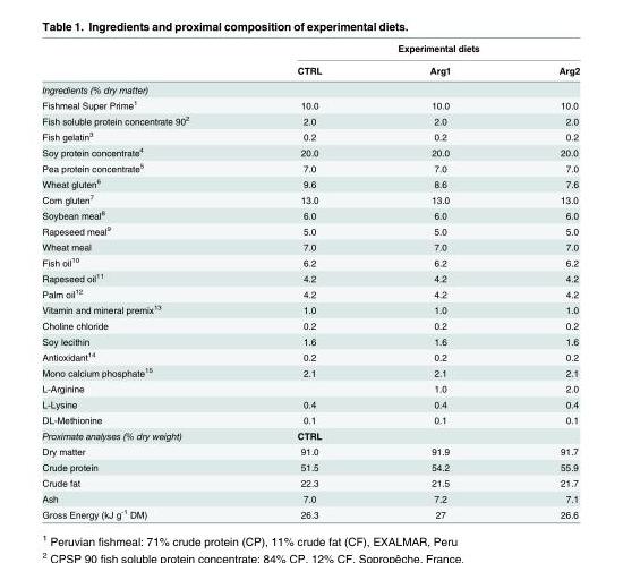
<table><thead><tr><td rowspan="2"></td><td colspan="3">Experimental diets</td></tr><tr><td>CTRL</td><td>Arg1</td><td>Arg2</td></tr></thead><tbody><tr><td colspan="4">Ingredients (% dry matter)</td></tr><tr><td>Fishmeal Super Prime<sup>1</sup></td><td>10.0</td><td>10.0</td><td>10.0</td></tr><tr><td>Fish soluble protein concentrate 90<sup>2</sup></td><td>2.0</td><td>2.0</td><td>2.0</td></tr><tr><td>Fish gelatin<sup>3</sup></td><td>0.2</td><td>0.2</td><td>0.2</td></tr><tr><td>Soy protein concentrate<sup>4</sup></td><td>20.0</td><td>20.0</td><td>20.0</td></tr><tr><td>Pea protein concentrate<sup>5</sup></td><td>7.0</td><td>7.0</td><td>7.0</td></tr><tr><td>Wheat gluten<sup>6</sup></td><td>9.6</td><td>8.6</td><td>7.6</td></tr><tr><td>Corn gluten<sup>7</sup></td><td>13.0</td><td>13.0</td><td>13.0</td></tr><tr><td>Soybean meal<sup>8</sup></td><td>6.0</td><td>6.0</td><td>6.0</td></tr><tr><td>Rapeseed meal<sup>9</sup></td><td>5.0</td><td>5.0</td><td>5.0</td></tr><tr><td>Wheat meal</td><td>7.0</td><td>7.0</td><td>7.0</td></tr><tr><td>Fish oil<sup>10</sup></td><td>6.2</td><td>6.2</td><td>6.2</td></tr><tr><td>Rapeseed oil<sup>11</sup></td><td>4.2</td><td>4.2</td><td>4.2</td></tr><tr><td>Palm oil<sup>12</sup></td><td>4.2</td><td>4.2</td><td>4.2</td></tr><tr><td>Vitamin and mineral premix<sup>13</sup></td><td>1.0</td><td>1.0</td><td>1.0</td></tr><tr><td>Choline chloride</td><td>0.2</td><td>0.2</td><td>0.2</td></tr><tr><td>Soy lecithin</td><td>1.6</td><td>1.6</td><td>1.6</td></tr><tr><td>Antioxidant<sup>14</sup></td><td>0.2</td><td>0.2</td><td>0.2</td></tr><tr><td>Mono calcium phosphate<sup>15</sup></td><td>2.1</td><td>2.1</td><td>2.1</td></tr><tr><td>L-Arginine</td><td></td><td>1.0</td><td>2.0</td></tr><tr><td>L-Lysine</td><td>0.4</td><td>0.4</td><td>0.4</td></tr><tr><td>DL-Methionine</td><td>0.1</td><td>0.1</td><td>0.1</td></tr><tr><td>Proximate analyses (% dry weight)</td><td>CTRL</td><td></td><td></td></tr><tr><td>Dry matter</td><td>91.0</td><td>91.9</td><td>91.7</td></tr><tr><td>Crude protein</td><td>51.5</td><td>54.2</td><td>55.9</td></tr><tr><td>Crude fat</td><td>22.3</td><td>21.5</td><td>21.7</td></tr><tr><td>Ash</td><td>7.0</td><td>7.2</td><td>7.1</td></tr><tr><td>Gross Energy (kJ g<sup>-1</sup> DM)</td><td>26.3</td><td>27</td><td>26.6</td></tr></tbody></table>